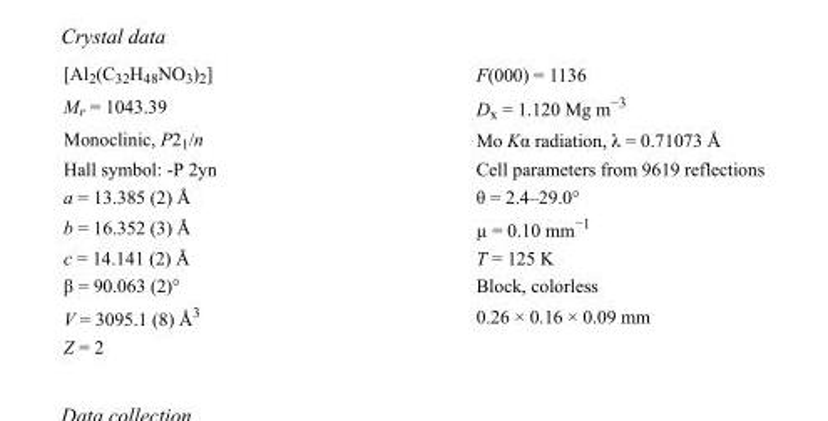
<table><tbody><tr><td>[Al<sub>2</sub>(C<sub>32</sub>H<sub>48</sub>NO<sub>3</sub>)<sub>2</sub>]</td><td>F(000) = 1136</td></tr><tr><td>M<sub>r</sub> = 1043.39</td><td>D<sub>x</sub> = 1.120 Mg m<sup>−3</sup></td></tr><tr><td>Monoclinic, P2<sub>1</sub>/n</td><td>Mo Kα radiation, λ = 0.71073 Å</td></tr><tr><td>Hall symbol: -P 2yn</td><td>Cell parameters from 9619 reflections</td></tr><tr><td>a = 13.385 (2) Å</td><td>θ = 2.4–29.0°</td></tr><tr><td>b = 16.352 (3) Å</td><td>µ = 0.10 mm<sup>−1</sup></td></tr><tr><td>c = 14.141 (2) Å</td><td>T = 125 K</td></tr><tr><td>β = 90.063 (2)°</td><td>Block, colorless</td></tr><tr><td>V = 3095.1 (8) Å<sup>3</sup></td><td>0.26 × 0.16 × 0.09 mm</td></tr><tr><td>Z = 2</td><td></td></tr></tbody></table>